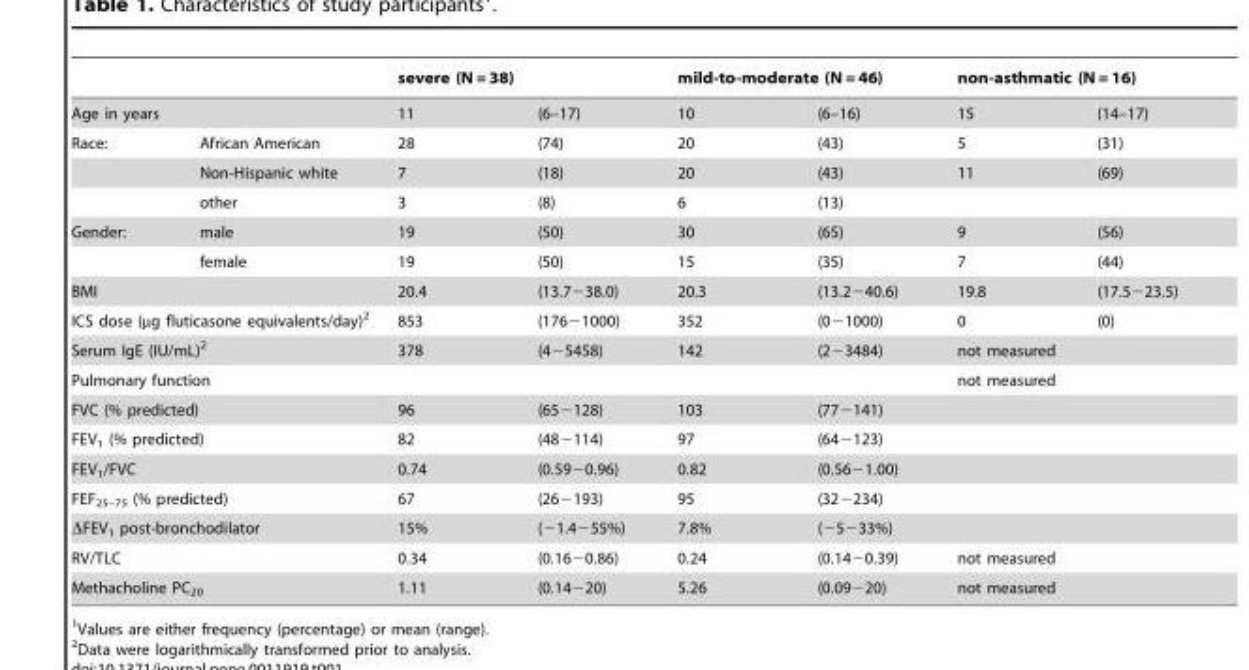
<table><thead><tr><td></td><td></td><td colspan="2">severe (N = 38)</td><td colspan="2">mild-to-moderate (N = 46)</td><td colspan="2">non-asthmatic (N = 16)</td></tr><tr><td colspan="2">Age in years</td><td>11</td><td>(6–17)</td><td>10</td><td>(6–16)</td><td>15</td><td>(14–17)</td></tr></thead><tbody><tr><td rowspan="3">Race:</td><td>African American</td><td>28</td><td>(74)</td><td>20</td><td>(43)</td><td>5</td><td>(31)</td></tr><tr><td>Non-Hispanic white</td><td>7</td><td>(18)</td><td>20</td><td>(43)</td><td>11</td><td>(69)</td></tr><tr><td>other</td><td>3</td><td>(8)</td><td>6</td><td>(13)</td><td></td><td></td></tr><tr><td rowspan="2">Gender:</td><td>male</td><td>19</td><td>(50)</td><td>30</td><td>(65)</td><td>9</td><td>(56)</td></tr><tr><td>female</td><td>19</td><td>(50)</td><td>15</td><td>(35)</td><td>7</td><td>(44)</td></tr><tr><td colspan="2">BMI</td><td>20.4</td><td>(13.7−38.0)</td><td>20.3</td><td>(13.2−40.6)</td><td>19.8</td><td>(17.5−23.5)</td></tr><tr><td colspan="2">ICS dose (µg fluticasone equivalents/day)<sup>2</sup></td><td>853</td><td>(176−1000)</td><td>352</td><td>(0−1000)</td><td>0</td><td>(0)</td></tr><tr><td colspan="2">Serum IgE (IU/mL)<sup>2</sup></td><td>378</td><td>(4−5458)</td><td>142</td><td>(2−3484)</td><td colspan="2">not measured</td></tr><tr><td colspan="2">Pulmonary function</td><td></td><td></td><td></td><td></td><td colspan="2">not measured</td></tr><tr><td colspan="2">FVC (% predicted)</td><td>96</td><td>(65−128)</td><td>103</td><td>(77−141)</td><td colspan="2"></td></tr><tr><td colspan="2">FEV<sub>1</sub> (% predicted)</td><td>82</td><td>(48−114)</td><td>97</td><td>(64−123)</td><td colspan="2"></td></tr><tr><td colspan="2">FEV<sub>1</sub>/FVC</td><td>0.74</td><td>(0.59−0.96)</td><td>0.82</td><td>(0.56−1.00)</td><td colspan="2"></td></tr><tr><td colspan="2">FEF<sub>25–75</sub> (% predicted)</td><td>67</td><td>(26−193)</td><td>95</td><td>(32−234)</td><td colspan="2"></td></tr><tr><td colspan="2">ΔFEV<sub>1</sub> post-bronchodilator</td><td>15%</td><td>(−1.4−55%)</td><td>7.8%</td><td>(−5−33%)</td><td colspan="2"></td></tr><tr><td colspan="2">RV/TLC</td><td>0.34</td><td>(0.16−0.86)</td><td>0.24</td><td>(0.14−0.39)</td><td colspan="2">not measured</td></tr><tr><td colspan="2">Methacholine PC<sub>20</sub></td><td>1.11</td><td>(0.14−20)</td><td>5.26</td><td>(0.09−20)</td><td colspan="2">not measured</td></tr></tbody></table>